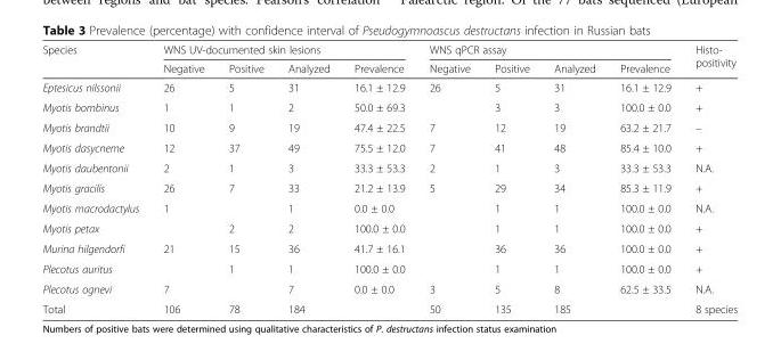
<table><thead><tr><td rowspan="2">Species</td><td colspan="4">WNS UV-documented skin lesions</td><td colspan="4">WNS qPCR assay</td><td rowspan="2">Histo- positivity</td></tr><tr><td>Negative</td><td>Positive</td><td>Analyzed</td><td>Prevalence</td><td>Negative</td><td>Positive</td><td>Analyzed</td><td>Prevalence</td></tr></thead><tbody><tr><td>Eptesicus nilssonii</td><td>26</td><td>5</td><td>31</td><td>16.1 ± 12.9</td><td>26</td><td>5</td><td>31</td><td>16.1 ± 12.9</td><td>+</td></tr><tr><td>Myotis bombinus</td><td>1</td><td>1</td><td>2</td><td>50.0 ± 69.3</td><td></td><td>3</td><td>3</td><td>100.0 ± 0.0</td><td>+</td></tr><tr><td>Myotis brandtii</td><td>10</td><td>9</td><td>19</td><td>47.4 ± 22.5</td><td>7</td><td>12</td><td>19</td><td>63.2 ± 21.7</td><td>–</td></tr><tr><td>Myotis dasycneme</td><td>12</td><td>37</td><td>49</td><td>75.5 ± 12.0</td><td>7</td><td>41</td><td>48</td><td>85.4 ± 10.0</td><td>+</td></tr><tr><td>Myotis daubentonii</td><td>2</td><td>1</td><td>3</td><td>33.3 ± 53.3</td><td>2</td><td>1</td><td>3</td><td>33.3 ± 53.3</td><td>N.A.</td></tr><tr><td>Myotis gracilis</td><td>26</td><td>7</td><td>33</td><td>21.2 ± 13.9</td><td>5</td><td>29</td><td>34</td><td>85.3 ± 11.9</td><td>+</td></tr><tr><td>Myotis macrodactylus</td><td>1</td><td></td><td>1</td><td>0.0 ± 0.0</td><td></td><td>1</td><td>1</td><td>100.0 ± 0.0</td><td>N.A.</td></tr><tr><td>Myotis petax</td><td></td><td>2</td><td>2</td><td>100.0 ± 0.0</td><td></td><td>1</td><td>1</td><td>100.0 ± 0.0</td><td>+</td></tr><tr><td>Murina hilgendorfi</td><td>21</td><td>15</td><td>36</td><td>41.7 ± 16.1</td><td></td><td>36</td><td>36</td><td>100.0 ± 0.0</td><td>+</td></tr><tr><td>Plecotus auritus</td><td></td><td>1</td><td>1</td><td>100.0 ± 0.0</td><td></td><td>1</td><td>1</td><td>100.0 ± 0.0</td><td>+</td></tr><tr><td>Plecotus ognevi</td><td>7</td><td></td><td>7</td><td>0.0 ± 0.0</td><td>3</td><td>5</td><td>8</td><td>62.5 ± 33.5</td><td>N.A.</td></tr><tr><td>Total</td><td>106</td><td>78</td><td>184</td><td></td><td>50</td><td>135</td><td>185</td><td></td><td>8 species</td></tr></tbody></table>